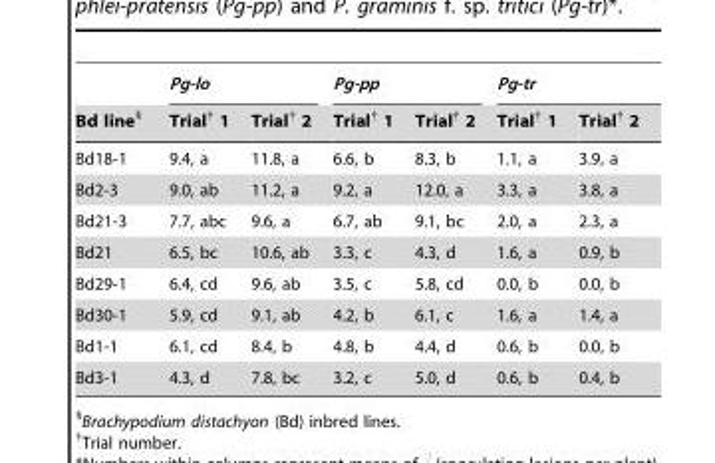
<table><thead><tr><td rowspan="2">Bd line§</td><td colspan="2">Pg-lo</td><td colspan="2">Pg-pp</td><td colspan="2">Pg-tr</td></tr><tr><td>Trial† 1</td><td>Trial† 2</td><td>Trial† 1</td><td>Trial† 2</td><td>Trial† 1</td><td>Trial† 2</td></tr></thead><tbody><tr><td>Bd18-1</td><td>9.4, a</td><td>11.8, a</td><td>6.6, b</td><td>8.3, b</td><td>1.1, a</td><td>3.9, a</td></tr><tr><td>Bd2-3</td><td>9.0, ab</td><td>11.2, a</td><td>9.2, a</td><td>12.0, a</td><td>3.3, a</td><td>3.8, a</td></tr><tr><td>Bd21-3</td><td>7.7, abc</td><td>9.6, a</td><td>6.7, ab</td><td>9.1, bc</td><td>2.0, a</td><td>2.3, a</td></tr><tr><td>Bd21</td><td>6.5, bc</td><td>10.6, ab</td><td>3.3, c</td><td>4.3, d</td><td>1.6, a</td><td>0.9, b</td></tr><tr><td>Bd29-1</td><td>6.4, cd</td><td>9.6, ab</td><td>3.5, c</td><td>5.8, cd</td><td>0.0, b</td><td>0.0, b</td></tr><tr><td>Bd30-1</td><td>5.9, cd</td><td>9.1, ab</td><td>4.2, b</td><td>6.1, c</td><td>1.6, a</td><td>1.4, a</td></tr><tr><td>Bd1-1</td><td>6.1, cd</td><td>8.4, b</td><td>4.8, b</td><td>4.4, d</td><td>0.6, b</td><td>0.0, b</td></tr><tr><td>Bd3-1</td><td>4.3, d</td><td>7.8, bc</td><td>3.2, c</td><td>5.0, d</td><td>0.6, b</td><td>0.4, b</td></tr></tbody></table>